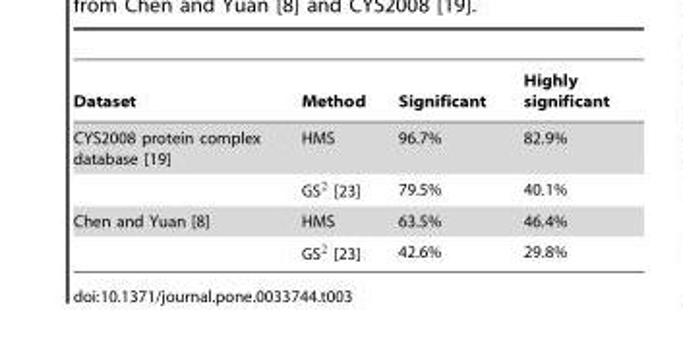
<table><thead><tr><td>Dataset</td><td>Method</td><td>Significant</td><td>Highly significant</td></tr></thead><tbody><tr><td rowspan="2">CYS2008 protein complex database [19]</td><td>HMS</td><td>96.7%</td><td>82.9%</td></tr><tr><td>GS2 [23]</td><td>79.5%</td><td>40.1%</td></tr><tr><td rowspan="2">Chen and Yuan [8]</td><td>HMS</td><td>63.5%</td><td>46.4%</td></tr><tr><td>GS2 [23]</td><td>42.6%</td><td>29.8%</td></tr></tbody></table>